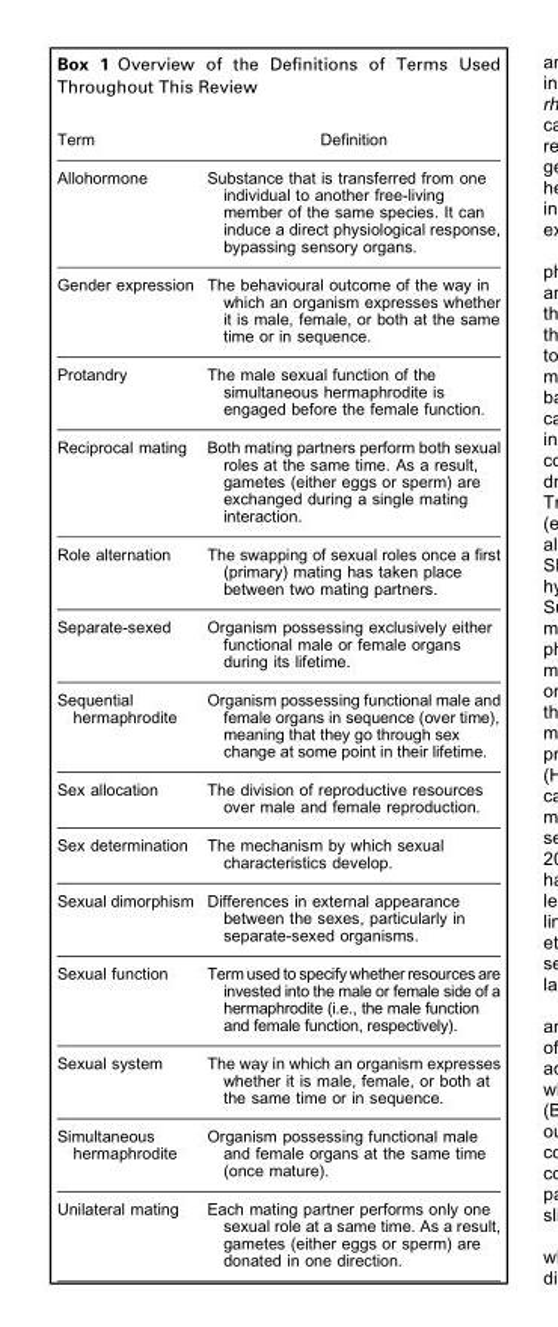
<table><tbody><tr><td colspan="2">Box 1 Overview of the Definitions of Terms Used Throughout This Review</td></tr><tr><td>Term</td><td>Definition</td></tr><tr><td>Allohormone</td><td>Substance that is transferred from one individual to another free-living member of the same species. It can induce a direct physiological response, bypassing sensory organs.</td></tr><tr><td>Gender expression</td><td>The behavioural outcome of the way in which an organism expresses whether it is male, female, or both at the same time or in sequence.</td></tr><tr><td>Protandry</td><td>The male sexual function of the simultaneous hermaphrodite is engaged before the female function.</td></tr><tr><td>Reciprocal mating</td><td>Both mating partners perform both sexual roles at the same time. As a result, gametes (either eggs or sperm) are exchanged during a single mating interaction.</td></tr><tr><td>Role alternation</td><td>The swapping of sexual roles once a first (primary) mating has taken place between two mating partners.</td></tr><tr><td>Separate-sexed</td><td>Organism possessing exclusively either functional male or female organs during its lifetime.</td></tr><tr><td>Sequential hermaphrodite</td><td>Organism possessing functional male and female organs in sequence (over time), meaning that they go through sex change at some point in their lifetime.</td></tr><tr><td>Sex allocation</td><td>The division of reproductive resources over male and female reproduction.</td></tr><tr><td>Sex determination</td><td>The mechanism by which sexual characteristics develop.</td></tr><tr><td>Sexual dimorphism</td><td>Differences in external appearance between the sexes, particularly in separate-sexed organisms.</td></tr><tr><td>Sexual function</td><td>Term used to specify whether resources are invested into the male or female side of a hermaphrodite (i.e., the male function and female function, respectively).</td></tr><tr><td>Sexual system</td><td>The way in which an organism expresses whether it is male, female, or both at the same time or in sequence.</td></tr><tr><td>Simultaneous hermaphrodite</td><td>Organism possessing functional male and female organs at the same time (once mature).</td></tr><tr><td>Unilateral mating</td><td>Each mating partner performs only one sexual role at a same time. As a result, gametes (either eggs or sperm) are donated in one direction.</td></tr></tbody></table>